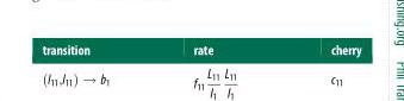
<table><thead><tr><td>transition</td><td>rate</td><td>cherry</td></tr></thead><tbody></tbody></table>